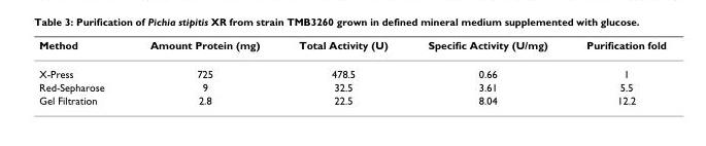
<table><thead><tr><td>Method</td><td>Amount Protein (mg)</td><td>Total Activity (U)</td><td>Specific Activity (U/mg)</td><td>Purification fold</td></tr></thead><tbody><tr><td>X-Press</td><td>725</td><td>478.5</td><td>0.66</td><td>1</td></tr><tr><td>Red-Sepharose</td><td>9</td><td>32.5</td><td>3.61</td><td>5.5</td></tr><tr><td>Gel Filtration</td><td>2.8</td><td>22.5</td><td>8.04</td><td>12.2</td></tr></tbody></table>